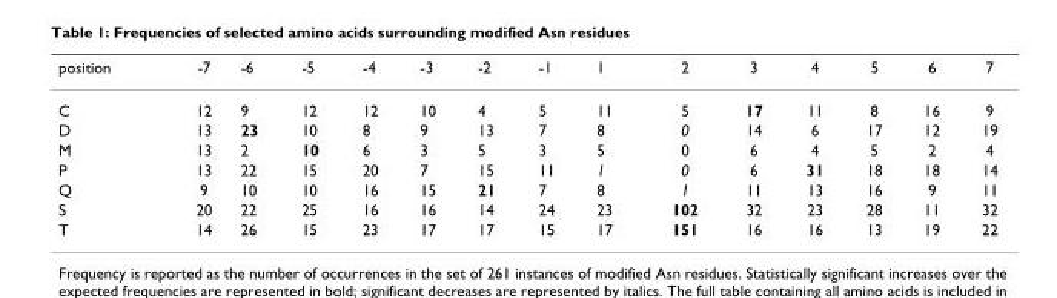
<table><thead><tr><td>position</td><td>-7</td><td>-6</td><td>-5</td><td>-4</td><td>-3</td><td>-2</td><td>-1</td><td>1</td><td>2</td><td>3</td><td>4</td><td>5</td><td>6</td><td>7</td></tr></thead><tbody><tr><td>C</td><td>12</td><td>9</td><td>12</td><td>12</td><td>10</td><td>4</td><td>5</td><td>11</td><td>5</td><td>17</td><td>11</td><td>8</td><td>16</td><td>9</td></tr><tr><td>D</td><td>13</td><td>23</td><td>10</td><td>8</td><td>9</td><td>13</td><td>7</td><td>8</td><td>0</td><td>14</td><td>6</td><td>17</td><td>12</td><td>19</td></tr><tr><td>M</td><td>13</td><td>2</td><td>10</td><td>6</td><td>3</td><td>5</td><td>3</td><td>5</td><td>0</td><td>6</td><td>4</td><td>5</td><td>2</td><td>4</td></tr><tr><td>P</td><td>13</td><td>22</td><td>15</td><td>20</td><td>7</td><td>15</td><td>11</td><td>1</td><td>0</td><td>6</td><td>31</td><td>18</td><td>18</td><td>14</td></tr><tr><td>Q</td><td>9</td><td>10</td><td>10</td><td>16</td><td>15</td><td>21</td><td>7</td><td>8</td><td>1</td><td>11</td><td>13</td><td>16</td><td>9</td><td>11</td></tr><tr><td>S</td><td>20</td><td>22</td><td>25</td><td>16</td><td>16</td><td>14</td><td>24</td><td>23</td><td>102</td><td>32</td><td>23</td><td>28</td><td>11</td><td>32</td></tr><tr><td>T</td><td>14</td><td>26</td><td>15</td><td>23</td><td>17</td><td>17</td><td>15</td><td>17</td><td>151</td><td>16</td><td>16</td><td>13</td><td>19</td><td>22</td></tr></tbody></table>